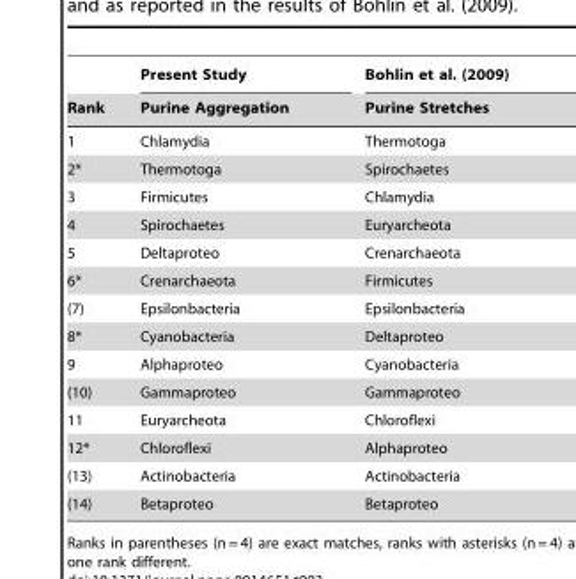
<table><thead><tr><td rowspan="2">Rank</td><td rowspan="2">Present Study Purine Aggregation</td><td rowspan="2">Bohlin et al. (2009) Purine Stretches</td></tr><tr></tr></thead><tbody><tr><td>1</td><td>Chlamydia</td><td>Thermotoga</td></tr><tr><td>2*</td><td>Thermotoga</td><td>Spirochaetes</td></tr><tr><td>3</td><td>Firmicutes</td><td>Chlamydia</td></tr><tr><td>4</td><td>Spirochaetes</td><td>Euryarcheota</td></tr><tr><td>5</td><td>Deltaproteo</td><td>Crenarchaeota</td></tr><tr><td>6*</td><td>Crenarchaeota</td><td>Firmicutes</td></tr><tr><td>(7)</td><td>Epsilonbacteria</td><td>Epsilonbacteria</td></tr><tr><td>8*</td><td>Cyanobacteria</td><td>Deltaproteo</td></tr><tr><td>9</td><td>Alphaproteo</td><td>Cyanobacteria</td></tr><tr><td>(10)</td><td>Gammaproteo</td><td>Gammaproteo</td></tr><tr><td>11</td><td>Euryarcheota</td><td>Chloroflexi</td></tr><tr><td>12*</td><td>Chloroflexi</td><td>Alphaproteo</td></tr><tr><td>(13)</td><td>Actinobacteria</td><td>Actinobacteria</td></tr><tr><td>(14)</td><td>Betaproteo</td><td>Betaproteo</td></tr></tbody></table>